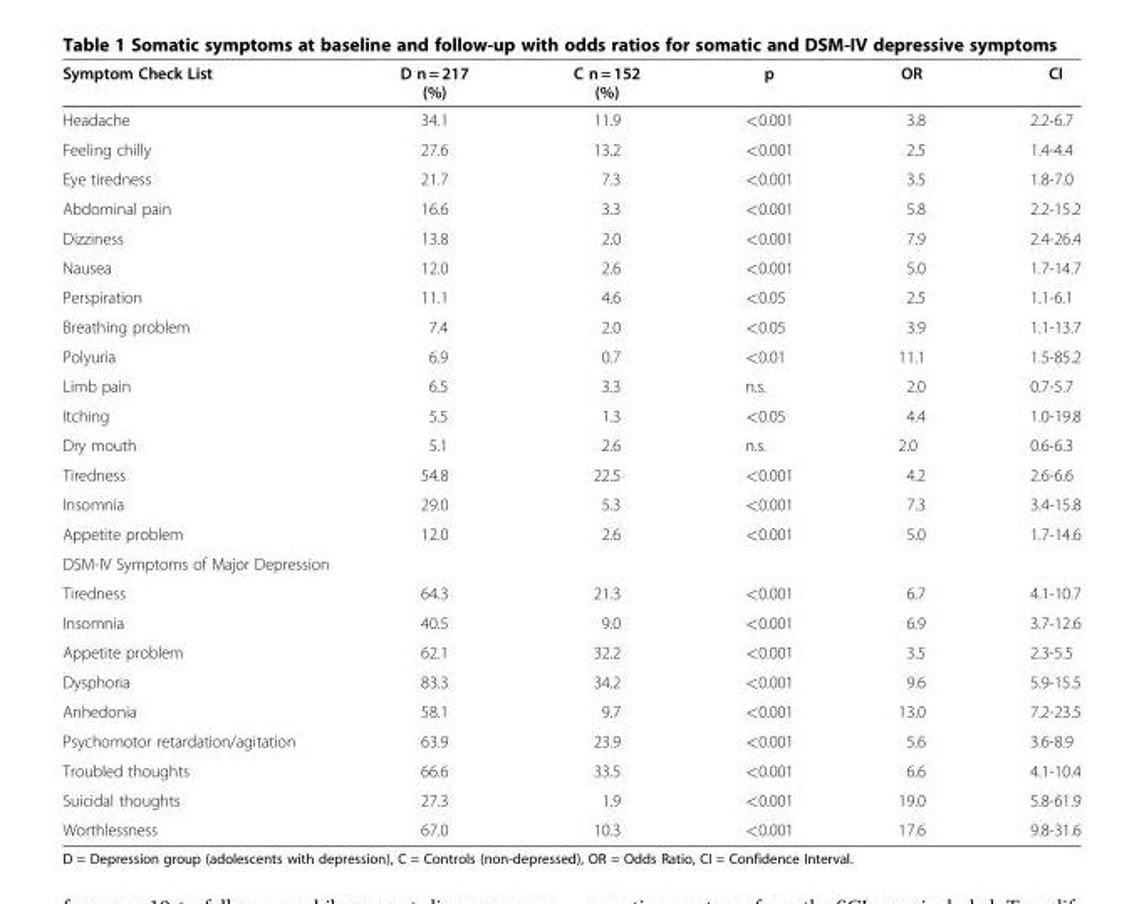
<table><thead><tr><td>Symptom Check List</td><td>D n = 217 (%)</td><td>C n = 152 (%)</td><td>p</td><td>OR</td><td>CI</td></tr></thead><tbody><tr><td>Headache</td><td>34.1</td><td>11.9</td><td>&lt;0.001</td><td>3.8</td><td>2.2-6.7</td></tr><tr><td>Feeling chilly</td><td>27.6</td><td>13.2</td><td>&lt;0.001</td><td>2.5</td><td>1.4-4.4</td></tr><tr><td>Eye tiredness</td><td>21.7</td><td>7.3</td><td>&lt;0.001</td><td>3.5</td><td>1.8-7.0</td></tr><tr><td>Abdominal pain</td><td>16.6</td><td>3.3</td><td>&lt;0.001</td><td>5.8</td><td>2.2-15.2</td></tr><tr><td>Dizziness</td><td>13.8</td><td>2.0</td><td>&lt;0.001</td><td>7.9</td><td>2.4-26.4</td></tr><tr><td>Nausea</td><td>12.0</td><td>2.6</td><td>&lt;0.001</td><td>5.0</td><td>1.7-14.7</td></tr><tr><td>Perspiration</td><td>11.1</td><td>4.6</td><td>&lt;0.05</td><td>2.5</td><td>1.1-6.1</td></tr><tr><td>Breathing problem</td><td>7.4</td><td>2.0</td><td>&lt;0.05</td><td>3.9</td><td>1.1-13.7</td></tr><tr><td>Polyuria</td><td>6.9</td><td>0.7</td><td>&lt;0.01</td><td>11.1</td><td>1.5-85.2</td></tr><tr><td>Limb pain</td><td>6.5</td><td>3.3</td><td>n.s.</td><td>2.0</td><td>0.7-5.7</td></tr><tr><td>Itching</td><td>5.5</td><td>1.3</td><td>&lt;0.05</td><td>4.4</td><td>1.0-19.8</td></tr><tr><td>Dry mouth</td><td>5.1</td><td>2.6</td><td>n.s.</td><td>2.0</td><td>0.6-6.3</td></tr><tr><td>Tiredness</td><td>54.8</td><td>22.5</td><td>&lt;0.001</td><td>4.2</td><td>2.6-6.6</td></tr><tr><td>Insomnia</td><td>29.0</td><td>5.3</td><td>&lt;0.001</td><td>7.3</td><td>3.4-15.8</td></tr><tr><td>Appetite problem</td><td>12.0</td><td>2.6</td><td>&lt;0.001</td><td>5.0</td><td>1.7-14.6</td></tr><tr><td colspan="6">DSM-IV Symptoms of Major Depression</td></tr><tr><td>Tiredness</td><td>64.3</td><td>21.3</td><td>&lt;0.001</td><td>6.7</td><td>4.1-10.7</td></tr><tr><td>Insomnia</td><td>40.5</td><td>9.0</td><td>&lt;0.001</td><td>6.9</td><td>3.7-12.6</td></tr><tr><td>Appetite problem</td><td>62.1</td><td>32.2</td><td>&lt;0.001</td><td>3.5</td><td>2.3-5.5</td></tr><tr><td>Dysphoria</td><td>83.3</td><td>34.2</td><td>&lt;0.001</td><td>9.6</td><td>5.9-15.5</td></tr><tr><td>Anhedonia</td><td>58.1</td><td>9.7</td><td>&lt;0.001</td><td>13.0</td><td>7.2-23.5</td></tr><tr><td>Psychomotor retardation/agitation</td><td>63.9</td><td>23.9</td><td>&lt;0.001</td><td>5.6</td><td>3.6-8.9</td></tr><tr><td>Troubled thoughts</td><td>66.6</td><td>33.5</td><td>&lt;0.001</td><td>6.6</td><td>4.1-10.4</td></tr><tr><td>Suicidal thoughts</td><td>27.3</td><td>1.9</td><td>&lt;0.001</td><td>19.0</td><td>5.8-61.9</td></tr><tr><td>Worthlessness</td><td>67.0</td><td>10.3</td><td>&lt;0.001</td><td>17.6</td><td>9.8-31.6</td></tr></tbody></table>